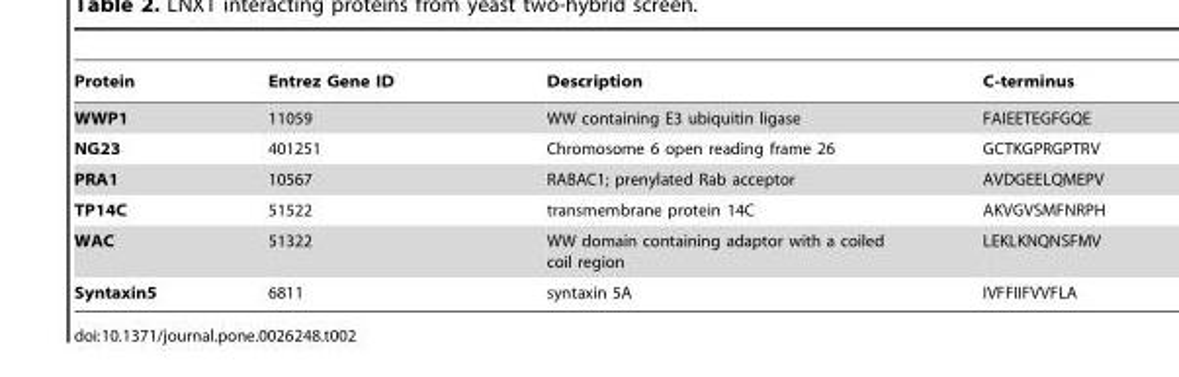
<table><thead><tr><td>Protein</td><td>Entrez Gene ID</td><td>Description</td><td>C-terminus</td></tr></thead><tbody><tr><td>WWP1</td><td>11059</td><td>WW containing E3 ubiquitin ligase</td><td>FAIEETEGFGQE</td></tr><tr><td>NG23</td><td>401251</td><td>Chromosome 6 open reading frame 26</td><td>GCTKGPRGPTRV</td></tr><tr><td>PRA1</td><td>10567</td><td>RABAC1; prenylated Rab acceptor</td><td>AVDGEELQMEPV</td></tr><tr><td>TP14C</td><td>51522</td><td>transmembrane protein 14C</td><td>AKVGVSMFNRPH</td></tr><tr><td>WAC</td><td>51322</td><td>WW domain containing adaptor with a coiled coil region</td><td>LEKLKNQNSFMV</td></tr><tr><td>Syntaxin5</td><td>6811</td><td>syntaxin 5A</td><td>IVFFIIFVVFLA</td></tr></tbody></table>